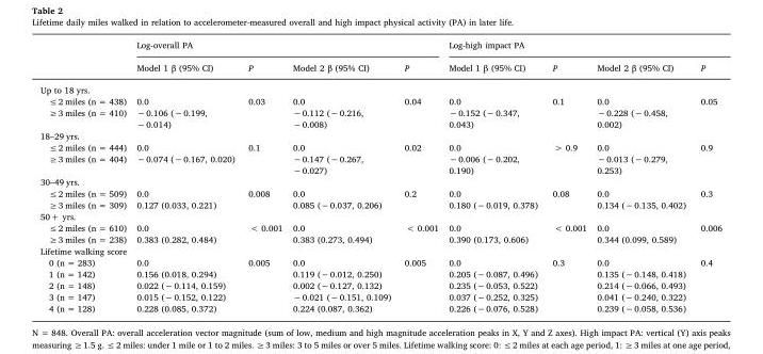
<table><thead><tr><td rowspan="2"></td><td colspan="4">Log-overall PA</td><td colspan="4">Log-high impact PA</td></tr><tr><td>Model 1 β (95% CI)</td><td>P</td><td>Model 2 β (95% CI)</td><td>P</td><td>Model 1 β (95% CI)</td><td>P</td><td>Model 2 β (95% CI)</td><td>P</td></tr></thead><tbody><tr><td colspan="9">Up to 18 yrs.</td></tr><tr><td>≤2 miles (n = 438)</td><td>0.0</td><td>0.03</td><td>0.0</td><td>0.04</td><td>0.0</td><td>0.1</td><td>0.0</td><td>0.05</td></tr><tr><td>≥3 miles (n = 410)</td><td>−0.106 (−0.199, −0.014)</td><td></td><td>−0.112 (−0.216, −0.008)</td><td></td><td>−0.152 (−0.347, 0.043)</td><td></td><td>−0.228 (−0.458, 0.002)</td><td></td></tr><tr><td colspan="9">18–29 yrs.</td></tr><tr><td>≤2 miles (n = 444)</td><td>0.0</td><td>0.1</td><td>0.0</td><td>0.02</td><td>0.0</td><td>&gt; 0.9</td><td>0.0</td><td>0.9</td></tr><tr><td>≥3 miles (n = 404)</td><td>−0.074 (−0.167, 0.020)</td><td></td><td>−0.147 (−0.267, −0.027)</td><td></td><td>−0.006 (−0.202, 0.190)</td><td></td><td>−0.013 (−0.279, 0.253)</td><td></td></tr><tr><td colspan="9">30–49 yrs.</td></tr><tr><td>≤2 miles (n = 509)</td><td>0.0</td><td>0.008</td><td>0.0</td><td>0.2</td><td>0.0</td><td>0.08</td><td>0.0</td><td>0.3</td></tr><tr><td>≥3 miles (n = 309)</td><td>0.127 (0.033, 0.221)</td><td></td><td>0.085 (−0.037, 0.206)</td><td></td><td>0.180 (−0.019, 0.378)</td><td></td><td>0.134 (−0.135, 0.402)</td><td></td></tr><tr><td colspan="9">50+ yrs.</td></tr><tr><td>≤2 miles (n = 610)</td><td>0.0</td><td>&lt; 0.001</td><td>0.0</td><td>&lt; 0.001</td><td>0.0</td><td>&lt; 0.001</td><td>0.0</td><td>0.006</td></tr><tr><td>≥3 miles (n = 238)</td><td>0.383 (0.282, 0.484)</td><td></td><td>0.383 (0.273, 0.494)</td><td></td><td>0.390 (0.173, 0.606)</td><td></td><td>0.344 (0.099, 0.589)</td><td></td></tr><tr><td colspan="9">Lifetime walking score</td></tr><tr><td>0 (n = 283)</td><td>0.0</td><td>0.005</td><td>0.0</td><td>0.005</td><td>0.0</td><td>0.3</td><td>0.0</td><td>0.4</td></tr><tr><td>1 (n = 142)</td><td>0.156 (0.018, 0.294)</td><td></td><td>0.119 (−0.012, 0.250)</td><td></td><td>0.205 (−0.087, 0.496)</td><td></td><td>0.135 (−0.148, 0.418)</td><td></td></tr><tr><td>2 (n = 148)</td><td>0.022 (−0.114, 0.159)</td><td></td><td>0.002 (−0.127, 0.132)</td><td></td><td>0.235 (−0.053, 0.522)</td><td></td><td>0.214 (−0.066, 0.493)</td><td></td></tr><tr><td>3 (n = 147)</td><td>0.015 (−0.152, 0.122)</td><td></td><td>−0.021 (−0.151, 0.109)</td><td></td><td>0.037 (−0.252, 0.325)</td><td></td><td>0.041 (−0.240, 0.322)</td><td></td></tr><tr><td>4 (n = 128)</td><td>0.228 (0.085, 0.372)</td><td></td><td>0.224 (0.087, 0.362)</td><td></td><td>0.226 (−0.076, 0.528)</td><td></td><td>0.239 (−0.058, 0.536)</td><td></td></tr></tbody></table>